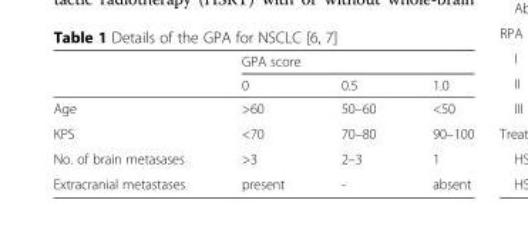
<table><thead><tr><td rowspan="2"></td><td colspan="3">GPA score</td></tr><tr><td>0</td><td>0.5</td><td>1.0</td></tr></thead><tbody><tr><td>Age</td><td>&gt;60</td><td>50–60</td><td>&lt;50</td></tr><tr><td>KPS</td><td>&lt;70</td><td>70–80</td><td>90–100</td></tr><tr><td>No. of brain metasases</td><td>&gt;3</td><td>2–3</td><td>1</td></tr><tr><td>Extracranial metastases</td><td>present</td><td>-</td><td>absent</td></tr></tbody></table>